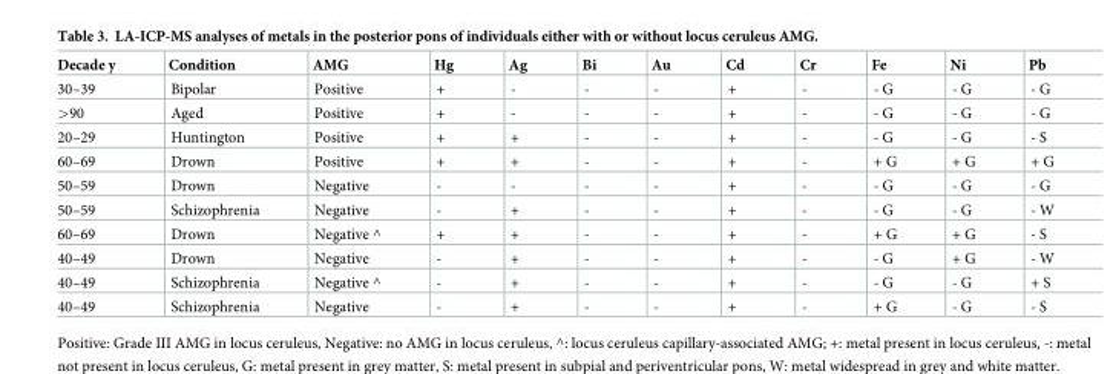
<table><thead><tr><td>Decade y</td><td>Condition</td><td>AMG</td><td>Hg</td><td>Ag</td><td>Bi</td><td>Au</td><td>Cd</td><td>Cr</td><td>Fe</td><td>Ni</td><td>Pb</td></tr></thead><tbody><tr><td>30–39</td><td>Bipolar</td><td>Positive</td><td>+</td><td>-</td><td>-</td><td>-</td><td>+</td><td>-</td><td>- G</td><td>- G</td><td>- G</td></tr><tr><td>&gt;90</td><td>Aged</td><td>Positive</td><td>+</td><td>-</td><td>-</td><td>-</td><td>+</td><td>-</td><td>- G</td><td>- G</td><td>- G</td></tr><tr><td>20–29</td><td>Huntington</td><td>Positive</td><td>+</td><td>+</td><td>-</td><td>-</td><td>+</td><td>-</td><td>- G</td><td>- G</td><td>- S</td></tr><tr><td>60–69</td><td>Drown</td><td>Positive</td><td>+</td><td>+</td><td>-</td><td>-</td><td>+</td><td>-</td><td>+ G</td><td>+ G</td><td>+ G</td></tr><tr><td>50–59</td><td>Drown</td><td>Negative</td><td>-</td><td>-</td><td>-</td><td>-</td><td>+</td><td>-</td><td>- G</td><td>- G</td><td>- G</td></tr><tr><td>50–59</td><td>Schizophrenia</td><td>Negative</td><td>-</td><td>+</td><td>-</td><td>-</td><td>+</td><td>-</td><td>- G</td><td>- G</td><td>- W</td></tr><tr><td>60–69</td><td>Drown</td><td>Negative ^</td><td>+</td><td>+</td><td>-</td><td>-</td><td>+</td><td>-</td><td>+ G</td><td>+ G</td><td>- S</td></tr><tr><td>40–49</td><td>Drown</td><td>Negative</td><td>-</td><td>+</td><td>-</td><td>-</td><td>+</td><td>-</td><td>- G</td><td>+ G</td><td>- W</td></tr><tr><td>40–49</td><td>Schizophrenia</td><td>Negative ^</td><td>-</td><td>+</td><td>-</td><td>-</td><td>+</td><td>-</td><td>- G</td><td>- G</td><td>+ S</td></tr><tr><td>40–49</td><td>Schizophrenia</td><td>Negative</td><td>-</td><td>+</td><td>-</td><td>-</td><td>+</td><td>-</td><td>+ G</td><td>- G</td><td>- S</td></tr></tbody></table>